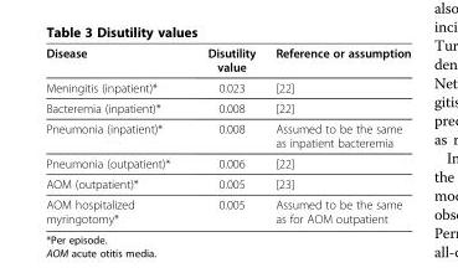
<table><thead><tr><td>Disease</td><td>Disutility value</td><td>Reference or assumption</td></tr></thead><tbody><tr><td>Meningitis (inpatient)*</td><td>0.023</td><td>[22]</td></tr><tr><td>Bacteremia (inpatient)*</td><td>0.008</td><td>[22]</td></tr><tr><td>Pneumonia (inpatient)*</td><td>0.008</td><td>Assumed to be the same as inpatient bacteremia</td></tr><tr><td>Pneumonia (outpatient)*</td><td>0.006</td><td>[22]</td></tr><tr><td>AOM (outpatient)*</td><td>0.005</td><td>[23]</td></tr><tr><td>AOM hospitalized myringotomy*</td><td>0.005</td><td>Assumed to be the same as for AOM outpatient</td></tr></tbody></table>